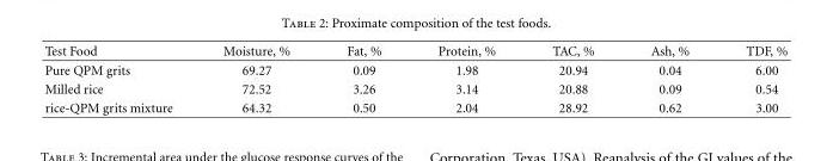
<table><thead><tr><td>Test Food</td><td>Moisture, %</td><td>Fat, %</td><td>Protein, %</td><td>TAC, %</td><td>Ash, %</td><td>TDF, %</td></tr></thead><tbody><tr><td>Pure QPM grits</td><td>69.27</td><td>0.09</td><td>1.98</td><td>20.94</td><td>0.04</td><td>6.00</td></tr><tr><td>Milled rice</td><td>72.52</td><td>3.26</td><td>3.14</td><td>20.88</td><td>0.09</td><td>0.54</td></tr><tr><td>rice-QPM grits mixture</td><td>64.32</td><td>0.50</td><td>2.04</td><td>28.92</td><td>0.62</td><td>3.00</td></tr></tbody></table>